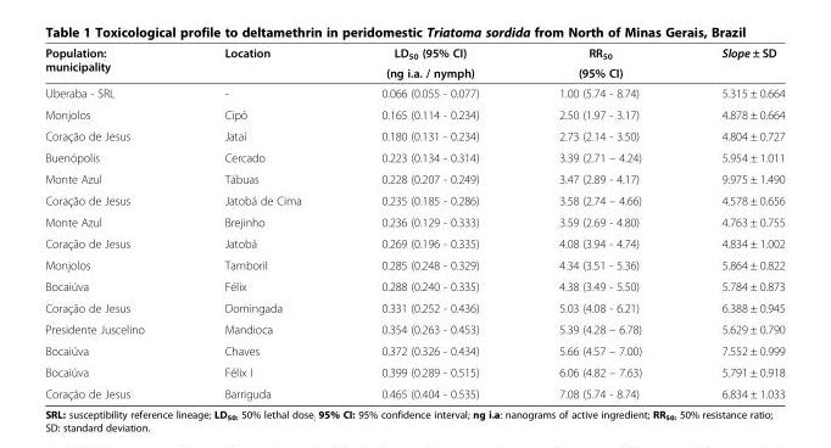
<table><thead><tr><td rowspan="2">Population: municipality</td><td rowspan="2">Location</td><td rowspan="2">LD<sub>50</sub> (95% CI) (ng i.a. / nymph)</td><td rowspan="2">RR<sub>50</sub> (95% CI)</td><td rowspan="2">Slope ± SD</td></tr><tr></tr></thead><tbody><tr><td>Uberaba - SRL</td><td>-</td><td>0.066 (0.055 - 0.077)</td><td>1.00 (5.74 - 8.74)</td><td>5.315 ± 0.664</td></tr><tr><td>Monjolos</td><td>Cipó</td><td>0.165 (0.114 - 0.234)</td><td>2.50 (1.97 - 3.17)</td><td>4.878 ± 0.664</td></tr><tr><td>Coração de Jesus</td><td>Jataí</td><td>0.180 (0.131 - 0.234)</td><td>2.73 (2.14 - 3.50)</td><td>4.804 ± 0.727</td></tr><tr><td>Buenópolis</td><td>Cercado</td><td>0.223 (0.134 - 0.314)</td><td>3.39 (2.71 – 4.24)</td><td>5.954 ± 1.011</td></tr><tr><td>Monte Azul</td><td>Tábuas</td><td>0.228 (0.207 - 0.249)</td><td>3.47 (2.89 - 4.17)</td><td>9.975 ± 1.490</td></tr><tr><td>Coração de Jesus</td><td>Jatobá de Cima</td><td>0.235 (0.185 - 0.286)</td><td>3.58 (2.74 – 4.66)</td><td>4.578 ± 0.656</td></tr><tr><td>Monte Azul</td><td>Brejinho</td><td>0.236 (0.129 - 0.333)</td><td>3.59 (2.69 - 4.80)</td><td>4.763 ± 0.755</td></tr><tr><td>Coração de Jesus</td><td>Jatobá</td><td>0.269 (0.196 - 0.335)</td><td>4.08 (3.94 - 4.74)</td><td>4.834 ± 1.002</td></tr><tr><td>Monjolos</td><td>Tamboril</td><td>0.285 (0.248 - 0.329)</td><td>4.34 (3.51 - 5.36)</td><td>5.864 ± 0.822</td></tr><tr><td>Bocaiúva</td><td>Félix</td><td>0.288 (0.240 - 0.335)</td><td>4.38 (3.49 - 5.50)</td><td>5.784 ± 0.873</td></tr><tr><td>Coração de Jesus</td><td>Domingada</td><td>0.331 (0.252 - 0.436)</td><td>5.03 (4.08 - 6.21)</td><td>6.388 ± 0.945</td></tr><tr><td>Presidente Juscelino</td><td>Mandioca</td><td>0.354 (0.263 - 0.453)</td><td>5.39 (4.28 – 6.78)</td><td>5.629 ± 0.790</td></tr><tr><td>Bocaiúva</td><td>Chaves</td><td>0.372 (0.326 - 0.434)</td><td>5.66 (4.57 – 7.00)</td><td>7.552 ± 0.999</td></tr><tr><td>Bocaiúva</td><td>Félix I</td><td>0.399 (0.289 - 0.515)</td><td>6.06 (4.82 – 7.63)</td><td>5.791 ± 0.918</td></tr><tr><td>Coração de Jesus</td><td>Barriguda</td><td>0.465 (0.404 - 0.535)</td><td>7.08 (5.74 - 8.74)</td><td>6.834 ± 1.033</td></tr></tbody></table>